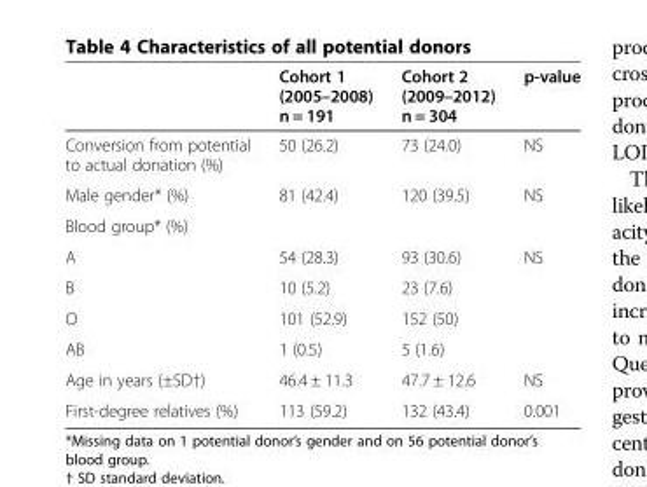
<table><thead><tr><td></td><td>Cohort 1 (2005–2008) n = 191</td><td>Cohort 2 (2009–2012) n = 304</td><td>p-value</td></tr></thead><tbody><tr><td>Conversion from potential to actual donation (%)</td><td>50 (26.2)</td><td>73 (24.0)</td><td>NS</td></tr><tr><td>Male gender* (%)</td><td>81 (42.4)</td><td>120 (39.5)</td><td>NS</td></tr><tr><td colspan="4">Blood group* (%)</td></tr><tr><td>A</td><td>54 (28.3)</td><td>93 (30.6)</td><td>NS</td></tr><tr><td>B</td><td>10 (5.2)</td><td>23 (7.6)</td><td></td></tr><tr><td>O</td><td>101 (52.9)</td><td>152 (50)</td><td></td></tr><tr><td>AB</td><td>1 (0.5)</td><td>5 (1.6)</td><td></td></tr><tr><td>Age in years (±SD†)</td><td>46.4 ± 11.3</td><td>47.7 ± 12.6</td><td>NS</td></tr><tr><td>First-degree relatives (%)</td><td>113 (59.2)</td><td>132 (43.4)</td><td>0.001</td></tr></tbody></table>